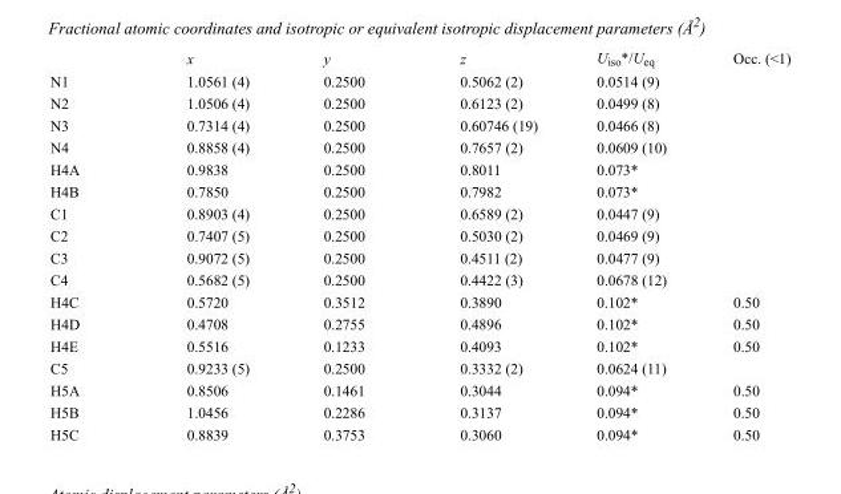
<table><thead><tr><td></td><td>x</td><td>y</td><td>z</td><td>U<sub>iso</sub>*/U<sub>eq</sub></td><td>Occ. (&lt;1)</td></tr></thead><tbody><tr><td>N1</td><td>1.0561 (4)</td><td>0.2500</td><td>0.5062 (2)</td><td>0.0514 (9)</td><td></td></tr><tr><td>N2</td><td>1.0506 (4)</td><td>0.2500</td><td>0.6123 (2)</td><td>0.0499 (8)</td><td></td></tr><tr><td>N3</td><td>0.7314 (4)</td><td>0.2500</td><td>0.60746 (19)</td><td>0.0466 (8)</td><td></td></tr><tr><td>N4</td><td>0.8858 (4)</td><td>0.2500</td><td>0.7657 (2)</td><td>0.0609 (10)</td><td></td></tr><tr><td>H4A</td><td>0.9838</td><td>0.2500</td><td>0.8011</td><td>0.073*</td><td></td></tr><tr><td>H4B</td><td>0.7850</td><td>0.2500</td><td>0.7982</td><td>0.073*</td><td></td></tr><tr><td>C1</td><td>0.8903 (4)</td><td>0.2500</td><td>0.6589 (2)</td><td>0.0447 (9)</td><td></td></tr><tr><td>C2</td><td>0.7407 (5)</td><td>0.2500</td><td>0.5030 (2)</td><td>0.0469 (9)</td><td></td></tr><tr><td>C3</td><td>0.9072 (5)</td><td>0.2500</td><td>0.4511 (2)</td><td>0.0477 (9)</td><td></td></tr><tr><td>C4</td><td>0.5682 (5)</td><td>0.2500</td><td>0.4422 (3)</td><td>0.0678 (12)</td><td></td></tr><tr><td>H4C</td><td>0.5720</td><td>0.3512</td><td>0.3890</td><td>0.102*</td><td>0.50</td></tr><tr><td>H4D</td><td>0.4708</td><td>0.2755</td><td>0.4896</td><td>0.102*</td><td>0.50</td></tr><tr><td>H4E</td><td>0.5516</td><td>0.1233</td><td>0.4093</td><td>0.102*</td><td>0.50</td></tr><tr><td>C5</td><td>0.9233 (5)</td><td>0.2500</td><td>0.3332 (2)</td><td>0.0624 (11)</td><td></td></tr><tr><td>H5A</td><td>0.8506</td><td>0.1461</td><td>0.3044</td><td>0.094*</td><td>0.50</td></tr><tr><td>H5B</td><td>1.0456</td><td>0.2286</td><td>0.3137</td><td>0.094*</td><td>0.50</td></tr><tr><td>H5C</td><td>0.8839</td><td>0.3753</td><td>0.3060</td><td>0.094*</td><td>0.50</td></tr></tbody></table>